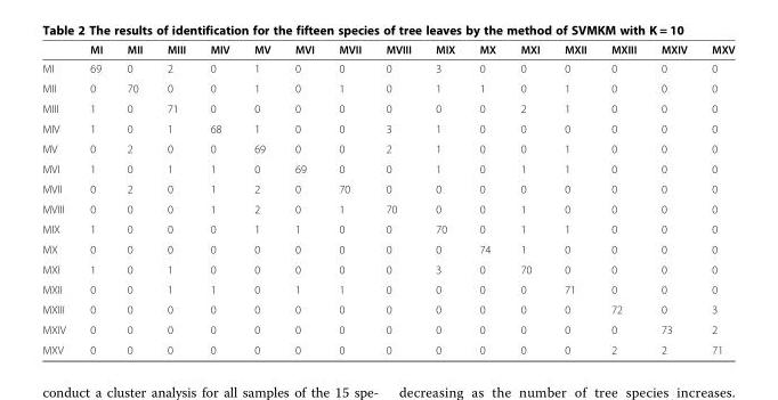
<table><thead><tr><td></td><td>MI</td><td>MII</td><td>MIII</td><td>MIV</td><td>MV</td><td>MVI</td><td>MVII</td><td>MVIII</td><td>MIX</td><td>MX</td><td>MXI</td><td>MXII</td><td>MXIII</td><td>MXIV</td><td>MXV</td></tr></thead><tbody><tr><td>MI</td><td>69</td><td>0</td><td>2</td><td>0</td><td>1</td><td>0</td><td>0</td><td>0</td><td>3</td><td>0</td><td>0</td><td>0</td><td>0</td><td>0</td><td>0</td></tr><tr><td>MII</td><td>0</td><td>70</td><td>0</td><td>0</td><td>1</td><td>0</td><td>1</td><td>0</td><td>1</td><td>1</td><td>0</td><td>1</td><td>0</td><td>0</td><td>0</td></tr><tr><td>MIII</td><td>1</td><td>0</td><td>71</td><td>0</td><td>0</td><td>0</td><td>0</td><td>0</td><td>0</td><td>0</td><td>2</td><td>1</td><td>0</td><td>0</td><td>0</td></tr><tr><td>MIV</td><td>1</td><td>0</td><td>1</td><td>68</td><td>1</td><td>0</td><td>0</td><td>3</td><td>1</td><td>0</td><td>0</td><td>0</td><td>0</td><td>0</td><td>0</td></tr><tr><td>MV</td><td>0</td><td>2</td><td>0</td><td>0</td><td>69</td><td>0</td><td>0</td><td>2</td><td>1</td><td>0</td><td>0</td><td>1</td><td>0</td><td>0</td><td>0</td></tr><tr><td>MVI</td><td>1</td><td>0</td><td>1</td><td>1</td><td>0</td><td>69</td><td>0</td><td>0</td><td>1</td><td>0</td><td>1</td><td>1</td><td>0</td><td>0</td><td>0</td></tr><tr><td>MVII</td><td>0</td><td>2</td><td>0</td><td>1</td><td>2</td><td>0</td><td>70</td><td>0</td><td>0</td><td>0</td><td>0</td><td>0</td><td>0</td><td>0</td><td>0</td></tr><tr><td>MVIII</td><td>0</td><td>0</td><td>0</td><td>1</td><td>2</td><td>0</td><td>1</td><td>70</td><td>0</td><td>0</td><td>1</td><td>0</td><td>0</td><td>0</td><td>0</td></tr><tr><td>MIX</td><td>1</td><td>0</td><td>0</td><td>0</td><td>1</td><td>1</td><td>0</td><td>0</td><td>70</td><td>0</td><td>1</td><td>1</td><td>0</td><td>0</td><td>0</td></tr><tr><td>MX</td><td>0</td><td>0</td><td>0</td><td>0</td><td>0</td><td>0</td><td>0</td><td>0</td><td>0</td><td>74</td><td>1</td><td>0</td><td>0</td><td>0</td><td>0</td></tr><tr><td>MXI</td><td>1</td><td>0</td><td>1</td><td>0</td><td>0</td><td>0</td><td>0</td><td>0</td><td>3</td><td>0</td><td>70</td><td>0</td><td>0</td><td>0</td><td>0</td></tr><tr><td>MXII</td><td>0</td><td>0</td><td>1</td><td>1</td><td>0</td><td>1</td><td>1</td><td>0</td><td>0</td><td>0</td><td>0</td><td>71</td><td>0</td><td>0</td><td>0</td></tr><tr><td>MXIII</td><td>0</td><td>0</td><td>0</td><td>0</td><td>0</td><td>0</td><td>0</td><td>0</td><td>0</td><td>0</td><td>0</td><td>0</td><td>72</td><td>0</td><td>3</td></tr><tr><td>MXIV</td><td>0</td><td>0</td><td>0</td><td>0</td><td>0</td><td>0</td><td>0</td><td>0</td><td>0</td><td>0</td><td>0</td><td>0</td><td>0</td><td>73</td><td>2</td></tr><tr><td>MXV</td><td>0</td><td>0</td><td>0</td><td>0</td><td>0</td><td>0</td><td>0</td><td>0</td><td>0</td><td>0</td><td>0</td><td>0</td><td>2</td><td>2</td><td>71</td></tr></tbody></table>